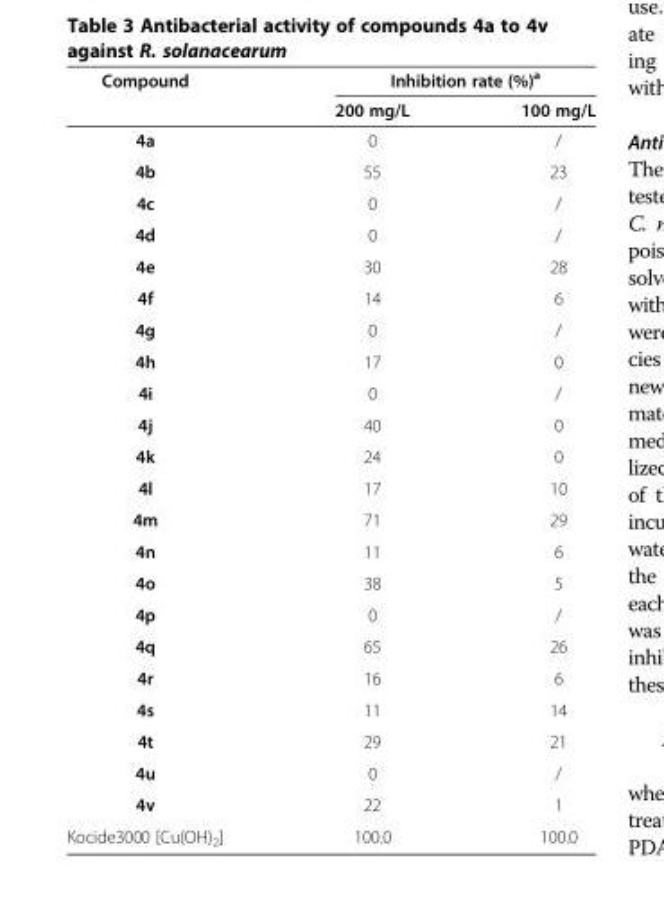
<table><thead><tr><td rowspan="2">Compound</td><td colspan="2">Inhibition rate (%)<sup>a</sup></td></tr><tr><td>200 mg/L</td><td>100 mg/L</td></tr></thead><tbody><tr><td>4a</td><td>0</td><td>/</td></tr><tr><td>4b</td><td>55</td><td>23</td></tr><tr><td>4c</td><td>0</td><td>/</td></tr><tr><td>4d</td><td>0</td><td>/</td></tr><tr><td>4e</td><td>30</td><td>28</td></tr><tr><td>4f</td><td>14</td><td>6</td></tr><tr><td>4g</td><td>0</td><td>/</td></tr><tr><td>4h</td><td>17</td><td>0</td></tr><tr><td>4i</td><td>0</td><td>/</td></tr><tr><td>4j</td><td>40</td><td>0</td></tr><tr><td>4k</td><td>24</td><td>0</td></tr><tr><td>4l</td><td>17</td><td>10</td></tr><tr><td>4m</td><td>71</td><td>29</td></tr><tr><td>4n</td><td>11</td><td>6</td></tr><tr><td>4o</td><td>38</td><td>5</td></tr><tr><td>4p</td><td>0</td><td>/</td></tr><tr><td>4q</td><td>65</td><td>26</td></tr><tr><td>4r</td><td>16</td><td>6</td></tr><tr><td>4s</td><td>11</td><td>14</td></tr><tr><td>4t</td><td>29</td><td>21</td></tr><tr><td>4u</td><td>0</td><td>/</td></tr><tr><td>4v</td><td>22</td><td>1</td></tr><tr><td>Kocide3000 [Cu(OH)<sub>2</sub>]</td><td>100.0</td><td>100.0</td></tr></tbody></table>